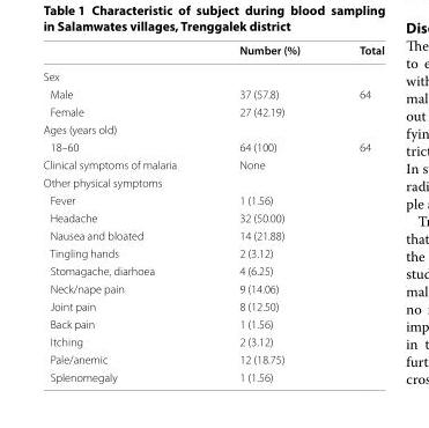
<table><thead><tr><td></td><td>Number (%)</td><td>Total</td></tr></thead><tbody><tr><td colspan="3">Sex</td></tr><tr><td>Male</td><td>37 (57.8)</td><td>64</td></tr><tr><td>Female</td><td>27 (42.19)</td><td></td></tr><tr><td colspan="3">Ages (years old)</td></tr><tr><td>18–60</td><td>64 (100)</td><td>64</td></tr><tr><td>Clinical symptoms of malaria</td><td>None</td><td></td></tr><tr><td colspan="3">Other physical symptoms</td></tr><tr><td>Fever</td><td>1 (1.56)</td><td></td></tr><tr><td>Headache</td><td>32 (50.00)</td><td></td></tr><tr><td>Nausea and bloated</td><td>14 (21.88)</td><td></td></tr><tr><td>Tingling hands</td><td>2 (3.12)</td><td></td></tr><tr><td>Stomagache, diarhoea</td><td>4 (6.25)</td><td></td></tr><tr><td>Neck/nape pain</td><td>9 (14.06)</td><td></td></tr><tr><td>Joint pain</td><td>8 (12.50)</td><td></td></tr><tr><td>Back pain</td><td>1 (1.56)</td><td></td></tr><tr><td>Itching</td><td>2 (3.12)</td><td></td></tr><tr><td>Pale/anemic</td><td>12 (18.75)</td><td></td></tr><tr><td>Splenomegaly</td><td>1 (1.56)</td><td></td></tr></tbody></table>